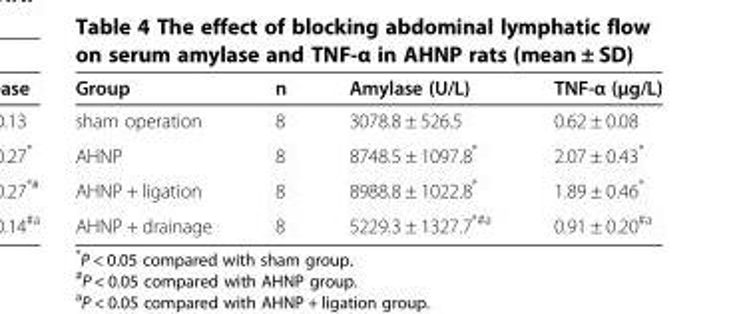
<table><thead><tr><td>Group</td><td>n</td><td>Amylase (U/L)</td><td>TNF-α (μg/L)</td></tr></thead><tbody><tr><td>sham operation</td><td>8</td><td>3078.8 ± 526.5</td><td>0.62 ± 0.08</td></tr><tr><td>AHNP</td><td>8</td><td>8748.5 ± 1097.8*</td><td>2.07 ± 0.43*</td></tr><tr><td>AHNP + ligation</td><td>8</td><td>8988.8 ± 1022.8*</td><td>1.89 ± 0.46*</td></tr><tr><td>AHNP + drainage</td><td>8</td><td>5229.3 ± 1327.7<sup>*#a</sup></td><td>0.91 ± 0.20<sup>#a</sup></td></tr></tbody></table>